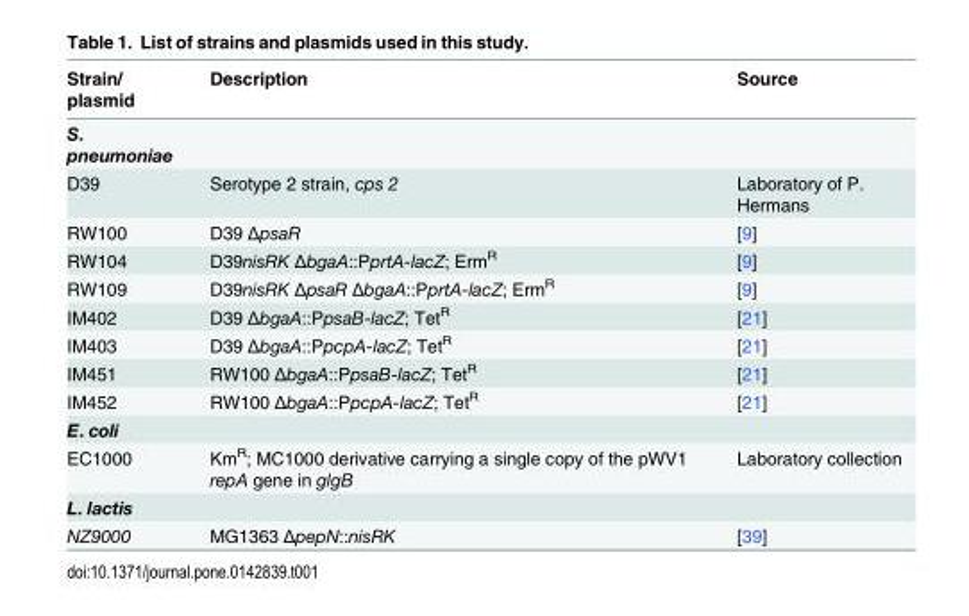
<table><thead><tr><td>Strain/ plasmid</td><td>Description</td><td>Source</td></tr></thead><tbody><tr><td colspan="3">S. pneumoniae</td></tr><tr><td>D39</td><td>Serotype 2 strain, cps 2</td><td>Laboratory of P. Hermans</td></tr><tr><td>RW100</td><td>D39 ΔpsaR</td><td>[9]</td></tr><tr><td>RW104</td><td>D39nisRK ΔbgaA::PprtA-lacZ; Erm<sup>R</sup></td><td>[9]</td></tr><tr><td>RW109</td><td>D39nisRK ΔpsaR ΔbgaA::PprtA-lacZ; Erm<sup>R</sup></td><td>[9]</td></tr><tr><td>IM402</td><td>D39 ΔbgaA::PpsaB-lacZ; Tet<sup>R</sup></td><td>[21]</td></tr><tr><td>IM403</td><td>D39 ΔbgaA::PpcpA-lacZ; Tet<sup>R</sup></td><td>[21]</td></tr><tr><td>IM451</td><td>RW100 ΔbgaA::PpsaB-lacZ; Tet<sup>R</sup></td><td>[21]</td></tr><tr><td>IM452</td><td>RW100 ΔbgaA::PpcpA-lacZ; Tet<sup>R</sup></td><td>[21]</td></tr><tr><td colspan="3">E. coli</td></tr><tr><td>EC1000</td><td>Km<sup>R</sup>; MC1000 derivative carrying a single copy of the pWV1 repA gene in glgB</td><td>Laboratory collection</td></tr><tr><td colspan="3">L. lactis</td></tr><tr><td>NZ9000</td><td>MG1363 ΔpepN::nisRK</td><td>[39]</td></tr></tbody></table>